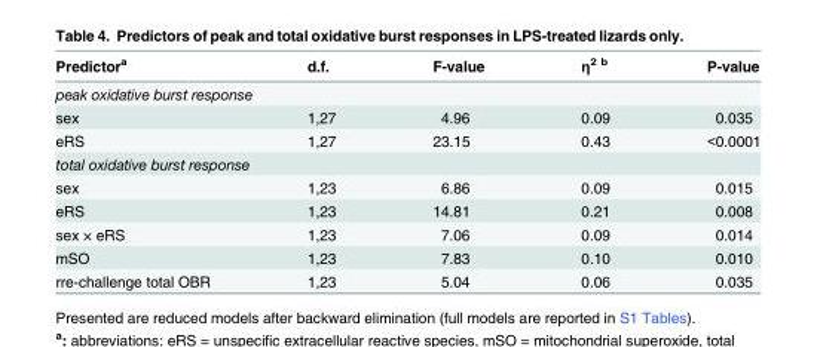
<table><thead><tr><td>Predictor<sup>a</sup></td><td>d.f.</td><td>F-value</td><td>η<sup>2 b</sup></td><td>P-value</td></tr></thead><tbody><tr><td colspan="5">peak oxidative burst response</td></tr><tr><td>sex</td><td>1,27</td><td>4.96</td><td>0.09</td><td>0.035</td></tr><tr><td>eRS</td><td>1,27</td><td>23.15</td><td>0.43</td><td>&lt;0.0001</td></tr><tr><td colspan="5">total oxidative burst response</td></tr><tr><td>sex</td><td>1,23</td><td>6.86</td><td>0.09</td><td>0.015</td></tr><tr><td>eRS</td><td>1,23</td><td>14.81</td><td>0.21</td><td>0.008</td></tr><tr><td>sex × eRS</td><td>1,23</td><td>7.06</td><td>0.09</td><td>0.014</td></tr><tr><td>mSO</td><td>1,23</td><td>7.83</td><td>0.10</td><td>0.010</td></tr><tr><td>rre-challenge total OBR</td><td>1,23</td><td>5.04</td><td>0.06</td><td>0.035</td></tr></tbody></table>